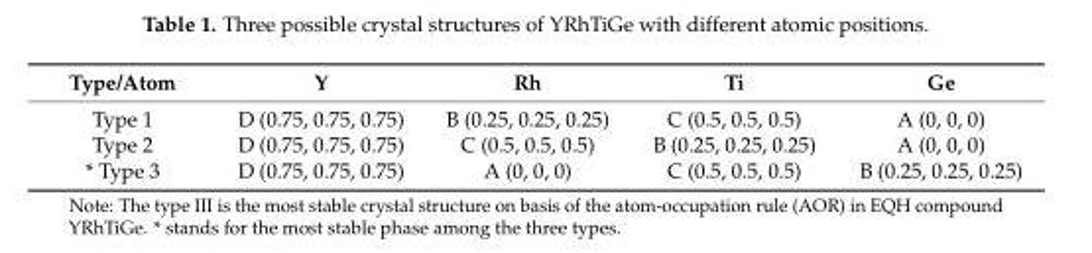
<table><thead><tr><td>Type/Atom</td><td>Y</td><td>Rh</td><td>Ti</td><td>Ge</td></tr></thead><tbody><tr><td>Type 1</td><td>D (0.75, 0.75, 0.75)</td><td>B (0.25, 0.25, 0.25)</td><td>C (0.5, 0.5, 0.5)</td><td>A (0, 0, 0)</td></tr><tr><td>Type 2</td><td>D (0.75, 0.75, 0.75)</td><td>C (0.5, 0.5, 0.5)</td><td>B (0.25, 0.25, 0.25)</td><td>A (0, 0, 0)</td></tr><tr><td>* Type 3</td><td>D (0.75, 0.75, 0.75)</td><td>A (0, 0, 0)</td><td>C (0.5, 0.5, 0.5)</td><td>B (0.25, 0.25, 0.25)</td></tr></tbody></table>